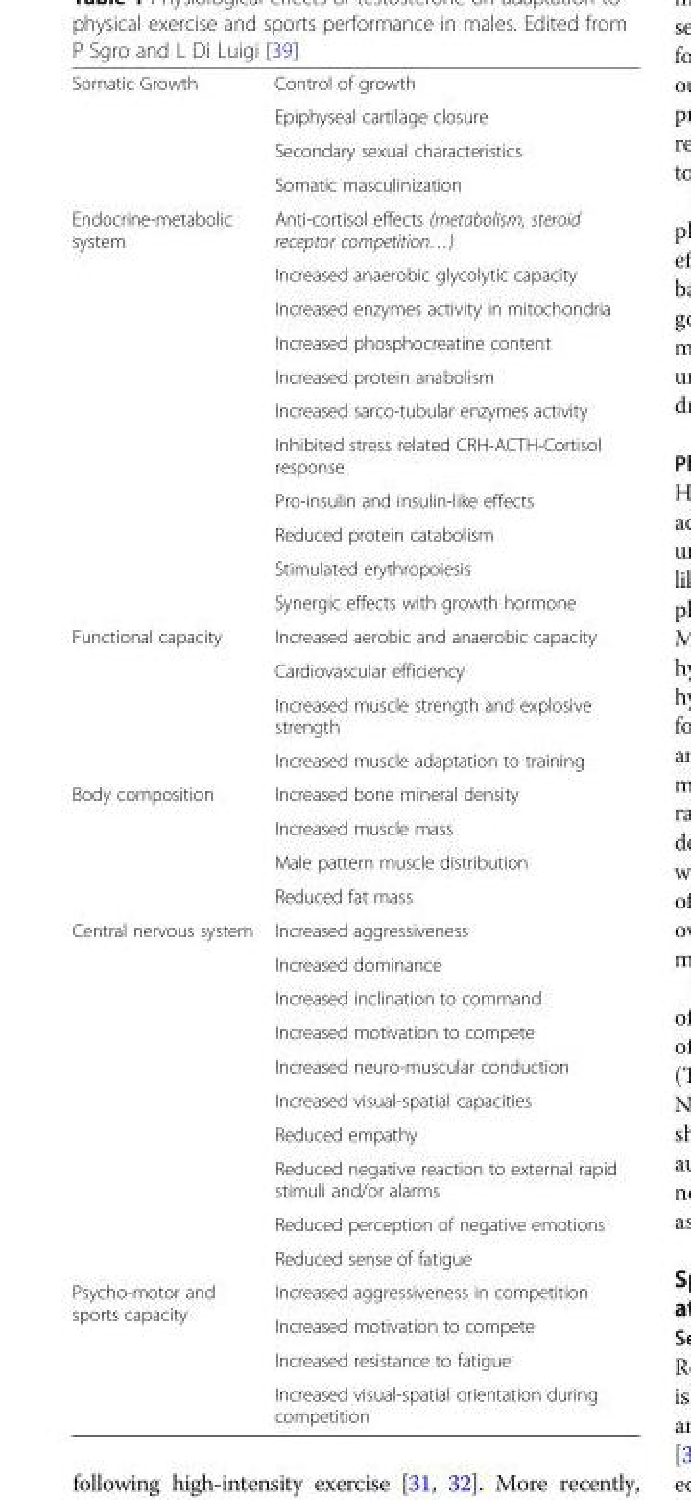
<table><tbody><tr><td rowspan="4">Somatic Growth</td><td>Control of growth</td></tr><tr><td>Epiphyseal cartilage closure</td></tr><tr><td>Secondary sexual characteristics</td></tr><tr><td>Somatic masculinization</td></tr><tr><td rowspan="11">Endocrine-metabolic system</td><td>Anti-cortisol effects (metabolism, steroid receptor competition…)</td></tr><tr><td>Increased anaerobic glycolytic capacity</td></tr><tr><td>Increased enzymes activity in mitochondria</td></tr><tr><td>Increased phosphocreatine content</td></tr><tr><td>Increased protein anabolism</td></tr><tr><td>Increased sarco-tubular enzymes activity</td></tr><tr><td>Inhibited stress related CRH-ACTH-Cortisol response</td></tr><tr><td>Pro-insulin and insulin-like effects</td></tr><tr><td>Reduced protein catabolism</td></tr><tr><td>Stimulated erythropoiesis</td></tr><tr><td>Synergic effects with growth hormone</td></tr><tr><td rowspan="4">Functional capacity</td><td>Increased aerobic and anaerobic capacity</td></tr><tr><td>Cardiovascular efficiency</td></tr><tr><td>Increased muscle strength and explosive strength</td></tr><tr><td>Increased muscle adaptation to training</td></tr><tr><td rowspan="4">Body composition</td><td>Increased bone mineral density</td></tr><tr><td>Increased muscle mass</td></tr><tr><td>Male pattern muscle distribution</td></tr><tr><td>Reduced fat mass</td></tr><tr><td rowspan="10">Central nervous system</td><td>Increased aggressiveness</td></tr><tr><td>Increased dominance</td></tr><tr><td>Increased inclination to command</td></tr><tr><td>Increased motivation to compete</td></tr><tr><td>Increased neuro-muscular conduction</td></tr><tr><td>Increased visual-spatial capacities</td></tr><tr><td>Reduced empathy</td></tr><tr><td>Reduced negative reaction to external rapid stimuli and/or alarms</td></tr><tr><td>Reduced perception of negative emotions</td></tr><tr><td>Reduced sense of fatigue</td></tr><tr><td rowspan="4">Psycho-motor and sports capacity</td><td>Increased aggressiveness in competition</td></tr><tr><td>Increased motivation to compete</td></tr><tr><td>Increased resistance to fatigue</td></tr><tr><td>Increased visual-spatial orientation during competition</td></tr></tbody></table>